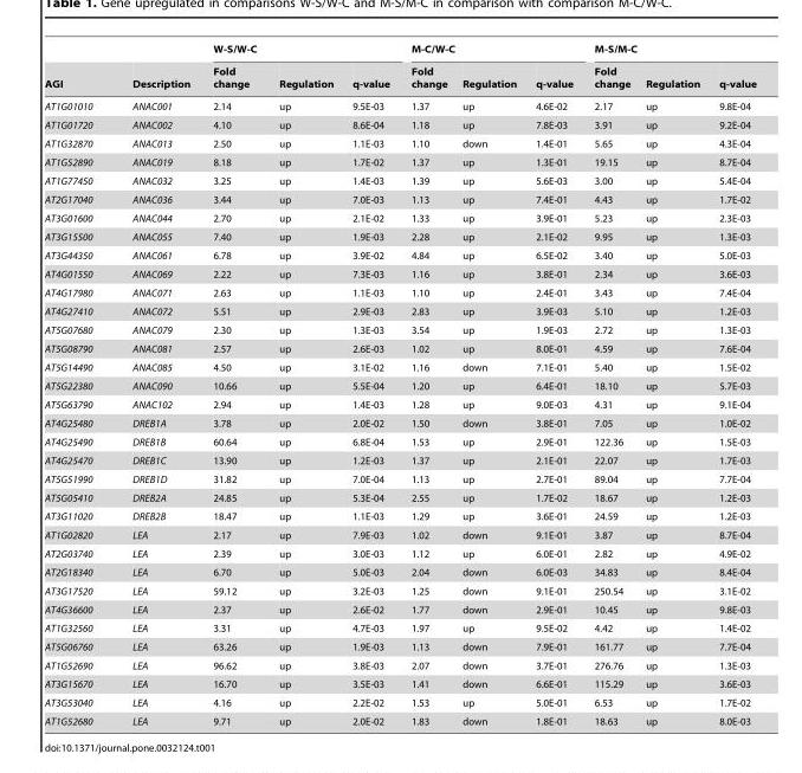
<table><thead><tr><td rowspan="2">AGI</td><td rowspan="2">Description</td><td colspan="3">W-S/W-C</td><td colspan="3">M-C/W-C</td><td colspan="3">M-S/M-C</td></tr><tr><td>Fold change</td><td>Regulation</td><td>q-value</td><td>Fold change</td><td>Regulation</td><td>q-value</td><td>Fold change</td><td>Regulation</td><td>q-value</td></tr></thead><tbody><tr><td>AT1G01010</td><td>ANAC001</td><td>2.14</td><td>up</td><td>9.5E-03</td><td>1.37</td><td>up</td><td>4.6E-02</td><td>2.17</td><td>up</td><td>9.8E-04</td></tr><tr><td>AT1G01720</td><td>ANAC002</td><td>4.10</td><td>up</td><td>8.6E-04</td><td>1.18</td><td>up</td><td>7.8E-03</td><td>3.91</td><td>up</td><td>9.2E-04</td></tr><tr><td>AT1G32870</td><td>ANAC013</td><td>2.50</td><td>up</td><td>1.1E-03</td><td>1.10</td><td>down</td><td>1.4E-01</td><td>5.65</td><td>up</td><td>4.3E-04</td></tr><tr><td>AT1G52890</td><td>ANAC019</td><td>8.18</td><td>up</td><td>1.7E-02</td><td>1.37</td><td>up</td><td>1.3E-01</td><td>19.15</td><td>up</td><td>8.7E-04</td></tr><tr><td>AT1G77450</td><td>ANAC032</td><td>3.25</td><td>up</td><td>1.4E-03</td><td>1.39</td><td>up</td><td>5.6E-03</td><td>3.00</td><td>up</td><td>5.4E-04</td></tr><tr><td>AT2G17040</td><td>ANAC036</td><td>3.44</td><td>up</td><td>7.0E-03</td><td>1.13</td><td>up</td><td>7.4E-01</td><td>4.43</td><td>up</td><td>1.7E-02</td></tr><tr><td>AT3G01600</td><td>ANAC044</td><td>2.70</td><td>up</td><td>2.1E-02</td><td>1.33</td><td>up</td><td>3.9E-01</td><td>5.23</td><td>up</td><td>2.3E-03</td></tr><tr><td>AT3G15500</td><td>ANAC055</td><td>7.40</td><td>up</td><td>1.9E-03</td><td>2.28</td><td>up</td><td>2.1E-02</td><td>9.95</td><td>up</td><td>1.3E-03</td></tr><tr><td>AT3G44350</td><td>ANAC061</td><td>6.78</td><td>up</td><td>3.9E-02</td><td>4.84</td><td>up</td><td>6.5E-02</td><td>3.40</td><td>up</td><td>5.0E-03</td></tr><tr><td>AT4G01550</td><td>ANAC069</td><td>2.22</td><td>up</td><td>7.3E-03</td><td>1.16</td><td>up</td><td>3.8E-01</td><td>2.34</td><td>up</td><td>3.6E-03</td></tr><tr><td>AT4G17980</td><td>ANAC071</td><td>2.63</td><td>up</td><td>1.1E-03</td><td>1.10</td><td>up</td><td>2.4E-01</td><td>3.43</td><td>up</td><td>7.4E-04</td></tr><tr><td>AT4G27410</td><td>ANAC072</td><td>5.51</td><td>up</td><td>2.9E-03</td><td>2.83</td><td>up</td><td>3.9E-03</td><td>5.10</td><td>up</td><td>1.2E-03</td></tr><tr><td>AT5G07680</td><td>ANAC079</td><td>2.30</td><td>up</td><td>1.3E-03</td><td>3.54</td><td>up</td><td>1.9E-03</td><td>2.72</td><td>up</td><td>1.3E-03</td></tr><tr><td>AT5G08790</td><td>ANAC081</td><td>2.57</td><td>up</td><td>2.6E-03</td><td>1.02</td><td>up</td><td>8.0E-01</td><td>4.59</td><td>up</td><td>7.6E-04</td></tr><tr><td>AT5G14490</td><td>ANAC085</td><td>4.50</td><td>up</td><td>3.1E-02</td><td>1.16</td><td>down</td><td>7.1E-01</td><td>5.40</td><td>up</td><td>1.5E-02</td></tr><tr><td>AT5G22380</td><td>ANAC090</td><td>10.66</td><td>up</td><td>5.5E-04</td><td>1.20</td><td>up</td><td>6.4E-01</td><td>18.10</td><td>up</td><td>5.7E-03</td></tr><tr><td>AT5G63790</td><td>ANAC102</td><td>2.94</td><td>up</td><td>1.4E-03</td><td>1.28</td><td>up</td><td>9.0E-03</td><td>4.31</td><td>up</td><td>9.1E-04</td></tr><tr><td>AT4G25480</td><td>DREB1A</td><td>3.78</td><td>up</td><td>2.0E-02</td><td>1.50</td><td>down</td><td>3.8E-01</td><td>7.05</td><td>up</td><td>1.0E-02</td></tr><tr><td>AT4G25490</td><td>DREB1B</td><td>60.64</td><td>up</td><td>6.8E-04</td><td>1.53</td><td>up</td><td>2.9E-01</td><td>122.36</td><td>up</td><td>1.5E-03</td></tr><tr><td>AT4G25470</td><td>DREB1C</td><td>13.90</td><td>up</td><td>1.2E-03</td><td>1.37</td><td>up</td><td>2.1E-01</td><td>22.07</td><td>up</td><td>1.7E-03</td></tr><tr><td>AT5G51990</td><td>DREB1D</td><td>31.82</td><td>up</td><td>7.0E-04</td><td>1.13</td><td>up</td><td>2.7E-01</td><td>89.04</td><td>up</td><td>7.7E-04</td></tr><tr><td>AT5G05410</td><td>DREB2A</td><td>24.85</td><td>up</td><td>5.3E-04</td><td>2.55</td><td>up</td><td>1.7E-02</td><td>18.67</td><td>up</td><td>1.2E-03</td></tr><tr><td>AT3G11020</td><td>DREB2B</td><td>18.47</td><td>up</td><td>1.1E-03</td><td>1.29</td><td>up</td><td>3.6E-01</td><td>24.59</td><td>up</td><td>1.2E-03</td></tr><tr><td>AT1G02820</td><td>LEA</td><td>2.17</td><td>up</td><td>7.9E-03</td><td>1.02</td><td>down</td><td>9.1E-01</td><td>3.87</td><td>up</td><td>8.7E-04</td></tr><tr><td>AT2G03740</td><td>LEA</td><td>2.39</td><td>up</td><td>3.0E-03</td><td>1.12</td><td>up</td><td>6.0E-01</td><td>2.82</td><td>up</td><td>4.9E-02</td></tr><tr><td>AT2G18340</td><td>LEA</td><td>6.70</td><td>up</td><td>5.0E-03</td><td>2.04</td><td>down</td><td>6.0E-03</td><td>34.83</td><td>up</td><td>8.4E-04</td></tr><tr><td>AT3G17520</td><td>LEA</td><td>59.12</td><td>up</td><td>3.2E-03</td><td>1.25</td><td>down</td><td>9.1E-01</td><td>250.54</td><td>up</td><td>3.1E-02</td></tr><tr><td>AT4G36600</td><td>LEA</td><td>2.37</td><td>up</td><td>2.6E-02</td><td>1.77</td><td>down</td><td>2.9E-01</td><td>10.45</td><td>up</td><td>9.8E-03</td></tr><tr><td>AT1G32560</td><td>LEA</td><td>3.31</td><td>up</td><td>4.7E-03</td><td>1.97</td><td>up</td><td>9.5E-02</td><td>4.42</td><td>up</td><td>1.4E-02</td></tr><tr><td>AT5G06760</td><td>LEA</td><td>63.26</td><td>up</td><td>1.9E-03</td><td>1.13</td><td>down</td><td>7.9E-01</td><td>161.77</td><td>up</td><td>7.7E-04</td></tr><tr><td>AT1G52690</td><td>LEA</td><td>96.62</td><td>up</td><td>3.8E-03</td><td>2.07</td><td>down</td><td>3.7E-01</td><td>276.76</td><td>up</td><td>1.3E-03</td></tr><tr><td>AT3G15670</td><td>LEA</td><td>16.70</td><td>up</td><td>3.5E-03</td><td>1.41</td><td>down</td><td>6.6E-01</td><td>115.29</td><td>up</td><td>3.6E-03</td></tr><tr><td>AT3G53040</td><td>LEA</td><td>4.16</td><td>up</td><td>2.2E-02</td><td>1.53</td><td>up</td><td>5.0E-01</td><td>6.53</td><td>up</td><td>1.7E-02</td></tr><tr><td>AT1G52680</td><td>LEA</td><td>9.71</td><td>up</td><td>2.0E-02</td><td>1.83</td><td>down</td><td>1.8E-01</td><td>18.63</td><td>up</td><td>8.0E-03</td></tr></tbody></table>